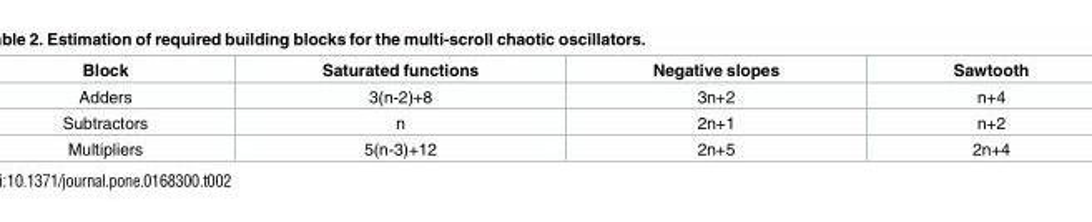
<table><thead><tr><td>Block</td><td>Saturated functions</td><td>Negative slopes</td><td>Sawtooth</td></tr></thead><tbody><tr><td>Adders</td><td>3(n-2)+8</td><td>3n+2</td><td>n+4</td></tr><tr><td>Subtractors</td><td>n</td><td>2n+1</td><td>n+2</td></tr><tr><td>Multipliers</td><td>5(n-3)+12</td><td>2n+5</td><td>2n+4</td></tr></tbody></table>